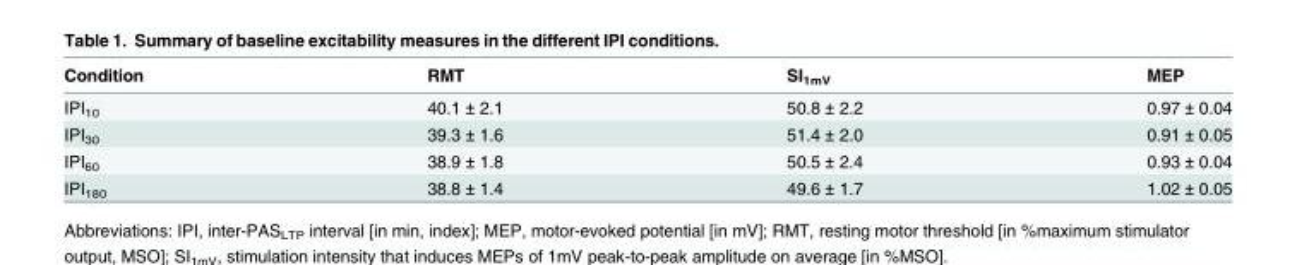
<table><thead><tr><td>Condition</td><td>RMT</td><td>SI<sub>1mV</sub></td><td>MEP</td></tr></thead><tbody><tr><td>IPI<sub>10</sub></td><td>40.1 ± 2.1</td><td>50.8 ± 2.2</td><td>0.97 ± 0.04</td></tr><tr><td>IPI<sub>30</sub></td><td>39.3 ± 1.6</td><td>51.4 ± 2.0</td><td>0.91 ± 0.05</td></tr><tr><td>IPI<sub>60</sub></td><td>38.9 ± 1.8</td><td>50.5 ± 2.4</td><td>0.93 ± 0.04</td></tr><tr><td>IPI<sub>180</sub></td><td>38.8 ± 1.4</td><td>49.6 ± 1.7</td><td>1.02 ± 0.05</td></tr></tbody></table>